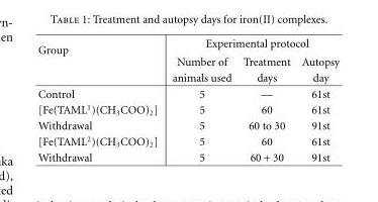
<table><tbody><tr><td rowspan="3">Group</td><td colspan="3">Experimental protocol</td></tr><tr><td>Number of</td><td>Treatment</td><td>Autopsy</td></tr><tr><td>animals used</td><td>days</td><td>day</td></tr><tr><td>Control</td><td>5</td><td>—</td><td>61st</td></tr><tr><td>[Fe(TAML<sup>1</sup>)(CH<sub>3</sub>COO)<sub>2</sub>]</td><td>5</td><td>60</td><td>61st</td></tr><tr><td>Withdrawal</td><td>5</td><td>60 to 30</td><td>91st</td></tr><tr><td>[Fe(TAML<sup>2</sup>)(CH<sub>3</sub>COO)<sub>2</sub>]</td><td>5</td><td>60</td><td>61st</td></tr><tr><td>Withdrawal</td><td>5</td><td>60 + 30</td><td>91st</td></tr></tbody></table>